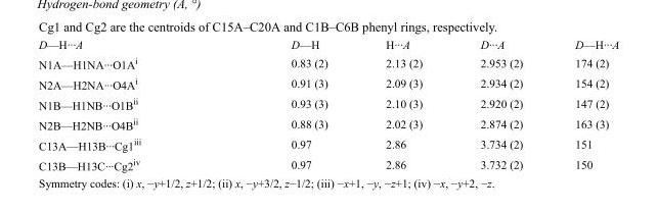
<table><tbody><tr><td>D—H···A</td><td>D—H</td><td>H···A</td><td>D···A</td><td>D—H···A</td></tr><tr><td>N1A—H1NA···O1A<sup>i</sup></td><td>0.83 (2)</td><td>2.13 (2)</td><td>2.953 (2)</td><td>174 (2)</td></tr><tr><td>N2A—H2NA···O4A<sup>i</sup></td><td>0.91 (3)</td><td>2.09 (3)</td><td>2.934 (2)</td><td>154 (2)</td></tr><tr><td>N1B—H1NB···O1B<sup>ii</sup></td><td>0.93 (3)</td><td>2.10 (3)</td><td>2.920 (2)</td><td>147 (2)</td></tr><tr><td>N2B—H2NB···O4B<sup>ii</sup></td><td>0.88 (3)</td><td>2.02 (3)</td><td>2.874 (2)</td><td>163 (3)</td></tr><tr><td>C13A—H13B···Cg1<sup>iii</sup></td><td>0.97</td><td>2.86</td><td>3.734 (2)</td><td>151</td></tr><tr><td>C13B—H13C···Cg2<sup>iv</sup></td><td>0.97</td><td>2.86</td><td>3.732 (2)</td><td>150</td></tr></tbody></table>